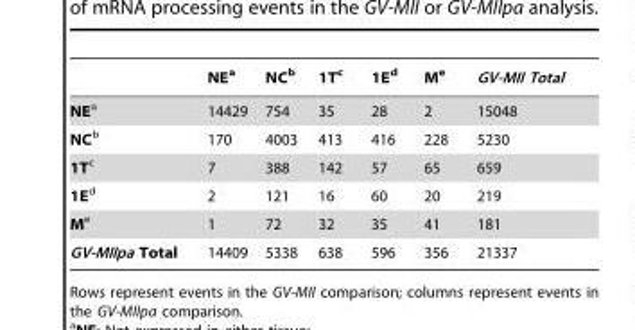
<table><thead><tr><td></td><td>NE<sup>a</sup></td><td>NC<sup>b</sup></td><td>1T<sup>c</sup></td><td>1E<sup>d</sup></td><td>M<sup>e</sup></td><td>GV-MII Total</td></tr></thead><tbody><tr><td>NEa</td><td>14429</td><td>754</td><td>35</td><td>28</td><td>2</td><td>15048</td></tr><tr><td>NCb</td><td>170</td><td>4003</td><td>413</td><td>416</td><td>228</td><td>5230</td></tr><tr><td>1Tc</td><td>7</td><td>388</td><td>142</td><td>57</td><td>65</td><td>659</td></tr><tr><td>1Ed</td><td>2</td><td>121</td><td>16</td><td>60</td><td>20</td><td>219</td></tr><tr><td>Me</td><td>1</td><td>72</td><td>32</td><td>35</td><td>41</td><td>181</td></tr><tr><td>GV-MIIpa Total</td><td>14409</td><td>5338</td><td>638</td><td>596</td><td>356</td><td>21337</td></tr></tbody></table>